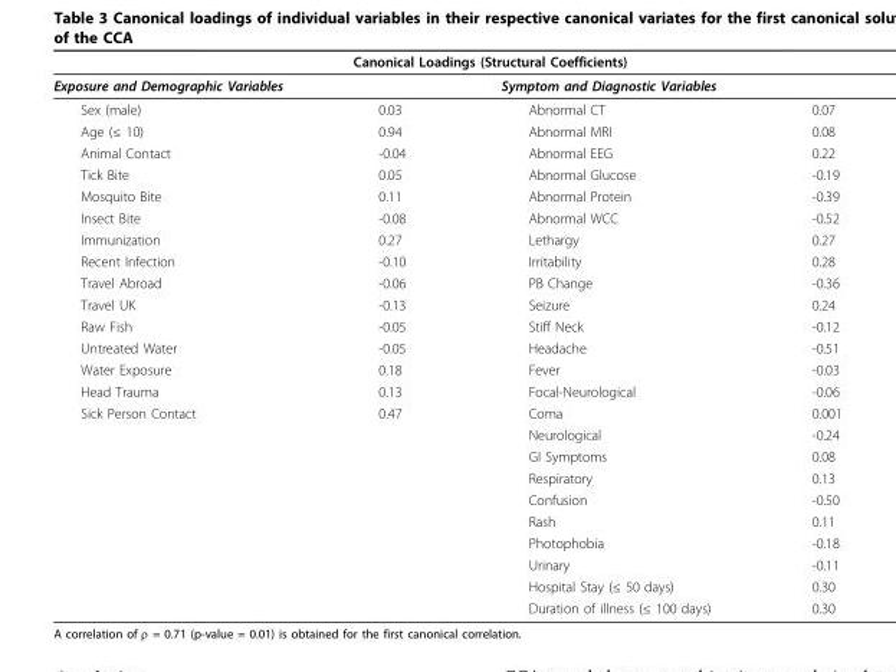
<table><thead><tr><td colspan="4">Canonical Loadings (Structural Coefficients)</td></tr><tr><td>Exposure and Demographic Variables</td><td></td><td>Symptom and Diagnostic Variables</td><td></td></tr></thead><tbody><tr><td>Sex (male)</td><td>0.03</td><td>Abnormal CT</td><td>0.07</td></tr><tr><td>Age (≤ 10)</td><td>0.94</td><td>Abnormal MRI</td><td>0.08</td></tr><tr><td>Animal Contact</td><td>-0.04</td><td>Abnormal EEG</td><td>0.22</td></tr><tr><td>Tick Bite</td><td>0.05</td><td>Abnormal Glucose</td><td>-0.19</td></tr><tr><td>Mosquito Bite</td><td>0.11</td><td>Abnormal Protein</td><td>-0.39</td></tr><tr><td>Insect Bite</td><td>-0.08</td><td>Abnormal WCC</td><td>-0.52</td></tr><tr><td>Immunization</td><td>0.27</td><td>Lethargy</td><td>0.27</td></tr><tr><td>Recent Infection</td><td>-0.10</td><td>Irritability</td><td>0.28</td></tr><tr><td>Travel Abroad</td><td>-0.06</td><td>PB Change</td><td>-0.36</td></tr><tr><td>Travel UK</td><td>-0.13</td><td>Seizure</td><td>0.24</td></tr><tr><td>Raw Fish</td><td>-0.05</td><td>Stiff Neck</td><td>-0.12</td></tr><tr><td>Untreated Water</td><td>-0.05</td><td>Headache</td><td>-0.51</td></tr><tr><td>Water Exposure</td><td>0.18</td><td>Fever</td><td>-0.03</td></tr><tr><td>Head Trauma</td><td>0.13</td><td>Focal-Neurological</td><td>-0.06</td></tr><tr><td rowspan="10">Sick Person Contact</td><td>0.47</td><td>Coma</td><td>0.001</td></tr><tr><td></td><td>Neurological</td><td>-0.24</td></tr><tr><td></td><td>GI Symptoms</td><td>0.08</td></tr><tr><td></td><td>Respiratory</td><td>0.13</td></tr><tr><td></td><td>Confusion</td><td>-0.50</td></tr><tr><td></td><td>Rash</td><td>0.11</td></tr><tr><td></td><td>Photophobia</td><td>-0.18</td></tr><tr><td></td><td>Urinary</td><td>-0.11</td></tr><tr><td></td><td>Hospital Stay (≤ 50 days)</td><td>0.30</td></tr><tr><td></td><td>Duration of illness (≤ 100 days)</td><td>0.30</td></tr></tbody></table>